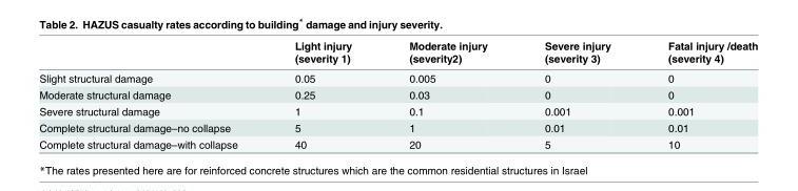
<table><thead><tr><td></td><td>Light injury (severity 1)</td><td>Moderate injury (severity2)</td><td>Severe injury (severity 3)</td><td>Fatal injury /death (severity 4)</td></tr></thead><tbody><tr><td>Slight structural damage</td><td>0.05</td><td>0.005</td><td>0</td><td>0</td></tr><tr><td>Moderate structural damage</td><td>0.25</td><td>0.03</td><td>0</td><td>0</td></tr><tr><td>Severe structural damage</td><td>1</td><td>0.1</td><td>0.001</td><td>0.001</td></tr><tr><td>Complete structural damage–no collapse</td><td>5</td><td>1</td><td>0.01</td><td>0.01</td></tr><tr><td>Complete structural damage–with collapse</td><td>40</td><td>20</td><td>5</td><td>10</td></tr></tbody></table>